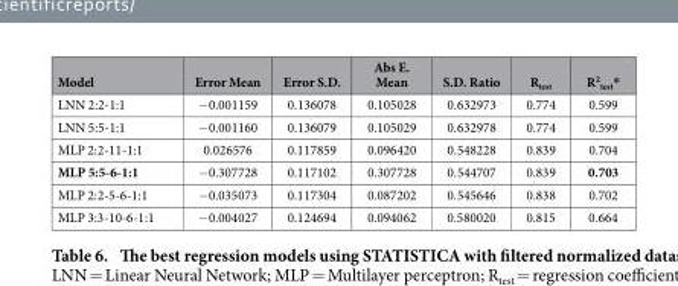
<table><thead><tr><td>Model</td><td>Error Mean</td><td>Error S.D.</td><td>Abs E. Mean</td><td>S.D. Ratio</td><td>R<sub>test</sub></td><td>R<sup>2</sup> <sub>test</sub>*</td></tr></thead><tbody><tr><td>LNN 2:2-1:1</td><td>− 0.001159</td><td>0.136078</td><td>0.105028</td><td>0.632973</td><td>0.774</td><td>0.599</td></tr><tr><td>LNN 5:5-1:1</td><td>− 0.001160</td><td>0.136079</td><td>0.105029</td><td>0.632978</td><td>0.774</td><td>0.599</td></tr><tr><td>MLP 2:2-11-1:1</td><td>0.026576</td><td>0.117859</td><td>0.096420</td><td>0.548228</td><td>0.839</td><td>0.704</td></tr><tr><td>MLP 5:5-6-1:1</td><td>− 0.307728</td><td>0.117102</td><td>0.307728</td><td>0.544707</td><td>0.839</td><td>0.703</td></tr><tr><td>MLP 2:2-5-6-1:1</td><td>− 0.035073</td><td>0.117304</td><td>0.087202</td><td>0.545646</td><td>0.838</td><td>0.702</td></tr><tr><td>MLP 3:3-10-6-1:1</td><td>− 0.004027</td><td>0.124694</td><td>0.094062</td><td>0.580020</td><td>0.815</td><td>0.664</td></tr></tbody></table>